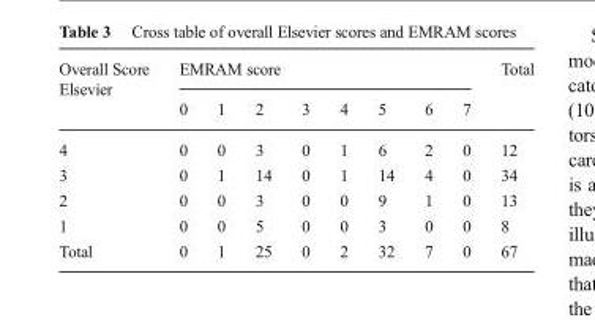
<table><thead><tr><td rowspan="2">Overall Score Elsevier</td><td colspan="8">EMRAM score</td><td rowspan="2">Total</td></tr><tr><td>0</td><td>1</td><td>2</td><td>3</td><td>4</td><td>5</td><td>6</td><td>7</td></tr></thead><tbody><tr><td>4</td><td>0</td><td>0</td><td>3</td><td>0</td><td>1</td><td>6</td><td>2</td><td>0</td><td>12</td></tr><tr><td>3</td><td>0</td><td>1</td><td>14</td><td>0</td><td>1</td><td>14</td><td>4</td><td>0</td><td>34</td></tr><tr><td>2</td><td>0</td><td>0</td><td>3</td><td>0</td><td>0</td><td>9</td><td>1</td><td>0</td><td>13</td></tr><tr><td>1</td><td>0</td><td>0</td><td>5</td><td>0</td><td>0</td><td>3</td><td>0</td><td>0</td><td>8</td></tr><tr><td>Total</td><td>0</td><td>1</td><td>25</td><td>0</td><td>2</td><td>32</td><td>7</td><td>0</td><td>67</td></tr></tbody></table>